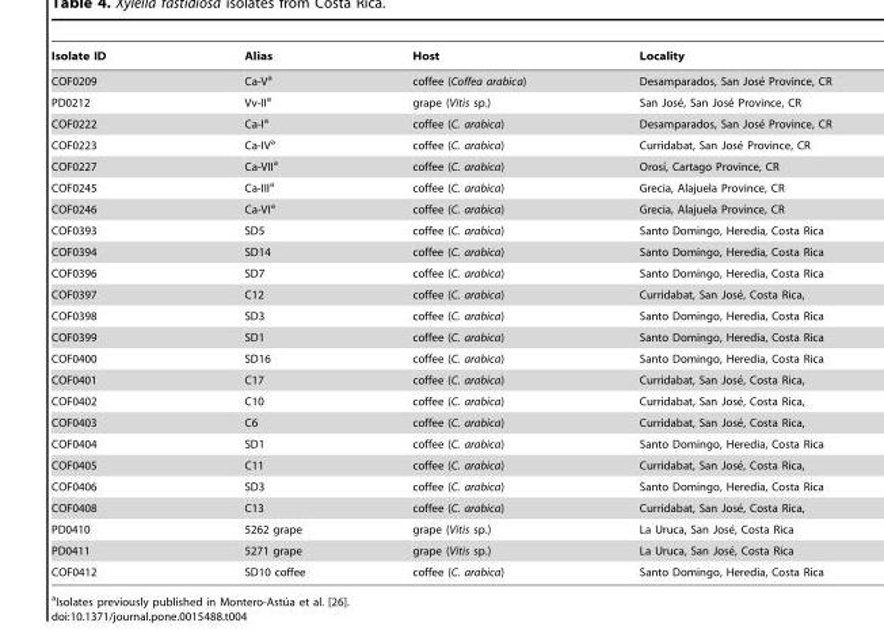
<table><thead><tr><td>Isolate ID</td><td>Alias</td><td>Host</td><td>Locality</td></tr></thead><tbody><tr><td>COF0209</td><td>Ca-V<sup>a</sup></td><td>coffee (Coffea arabica)</td><td>Desamparados, San Jose´ Province, CR</td></tr><tr><td>PD0212</td><td>Vv-II<sup>a</sup></td><td>grape (Vitis sp.)</td><td>San Jose´, San Jose´ Province, CR</td></tr><tr><td>COF0222</td><td>Ca-I<sup>a</sup></td><td>coffee (C. arabica)</td><td>Desamparados, San Jose´ Province, CR</td></tr><tr><td>COF0223</td><td>Ca-IV<sup>a</sup></td><td>coffee (C. arabica)</td><td>Curridabat, San Jose´ Province, CR</td></tr><tr><td>COF0227</td><td>Ca-VII<sup>a</sup></td><td>coffee (C. arabica)</td><td>Orosı´, Cartago Province, CR</td></tr><tr><td>COF0245</td><td>Ca-III<sup>a</sup></td><td>coffee (C. arabica)</td><td>Grecia, Alajuela Province, CR</td></tr><tr><td>COF0246</td><td>Ca-VI<sup>a</sup></td><td>coffee (C. arabica)</td><td>Grecia, Alajuela Province, CR</td></tr><tr><td>COF0393</td><td>SD5</td><td>coffee (C. arabica)</td><td>Santo Domingo, Heredia, Costa Rica</td></tr><tr><td>COF0394</td><td>SD14</td><td>coffee (C. arabica)</td><td>Santo Domingo, Heredia, Costa Rica</td></tr><tr><td>COF0396</td><td>SD7</td><td>coffee (C. arabica)</td><td>Santo Domingo, Heredia, Costa Rica</td></tr><tr><td>COF0397</td><td>C12</td><td>coffee (C. arabica)</td><td>Curridabat, San Jose´, Costa Rica,</td></tr><tr><td>COF0398</td><td>SD3</td><td>coffee (C. arabica)</td><td>Santo Domingo, Heredia, Costa Rica</td></tr><tr><td>COF0399</td><td>SD1</td><td>coffee (C. arabica)</td><td>Santo Domingo, Heredia, Costa Rica</td></tr><tr><td>COF0400</td><td>SD16</td><td>coffee (C. arabica)</td><td>Santo Domingo, Heredia, Costa Rica</td></tr><tr><td>COF0401</td><td>C17</td><td>coffee (C. arabica)</td><td>Curridabat, San Jose´, Costa Rica,</td></tr><tr><td>COF0402</td><td>C10</td><td>coffee (C. arabica)</td><td>Curridabat, San Jose´, Costa Rica,</td></tr><tr><td>COF0403</td><td>C6</td><td>coffee (C. arabica)</td><td>Curridabat, San Jose´, Costa Rica,</td></tr><tr><td>COF0404</td><td>SD1</td><td>coffee (C. arabica)</td><td>Santo Domingo, Heredia, Costa Rica</td></tr><tr><td>COF0405</td><td>C11</td><td>coffee (C. arabica)</td><td>Curridabat, San Jose´, Costa Rica,</td></tr><tr><td>COF0406</td><td>SD3</td><td>coffee (C. arabica)</td><td>Santo Domingo, Heredia, Costa Rica</td></tr><tr><td>COF0408</td><td>C13</td><td>coffee (C. arabica)</td><td>Curridabat, San Jose´, Costa Rica,</td></tr><tr><td>PD0410</td><td>5262 grape</td><td>grape (Vitis sp.)</td><td>La Uruca, San Jose´, Costa Rica</td></tr><tr><td>PD0411</td><td>5271 grape</td><td>grape (Vitis sp.)</td><td>La Uruca, San Jose´, Costa Rica</td></tr><tr><td>COF0412</td><td>SD10 coffee</td><td>coffee (C. arabica)</td><td>Santo Domingo, Heredia, Costa Rica</td></tr></tbody></table>